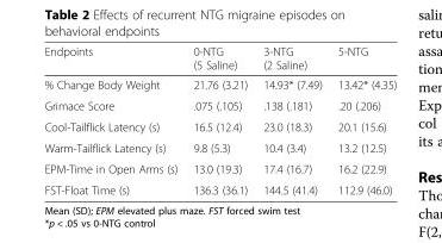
<table><thead><tr><td>Endpoints</td><td>0-NTG (5 Saline)</td><td>3-NTG (2 Saline)</td><td>5-NTG</td></tr></thead><tbody><tr><td>% Change Body Weight</td><td>21.76 (3.21)</td><td>14.93* (7.49)</td><td>13.42* (4.35)</td></tr><tr><td>Grimace Score</td><td>.075 (.105)</td><td>.138 (.181)</td><td>.20 (.206)</td></tr><tr><td>Cool-Tailflick Latency (s)</td><td>16.5 (12.4)</td><td>23.0 (18.3)</td><td>20.1 (15.6)</td></tr><tr><td>Warm-Tailflick Latency (s)</td><td>9.8 (5.3)</td><td>10.4 (3.4)</td><td>13.2 (12.5)</td></tr><tr><td>EPM-Time in Open Arms (s)</td><td>13.0 (19.3)</td><td>17.4 (16.7)</td><td>16.2 (22.9)</td></tr><tr><td>FST-Float Time (s)</td><td>136.3 (36.1)</td><td>144.5 (41.4)</td><td>112.9 (46.0)</td></tr></tbody></table>